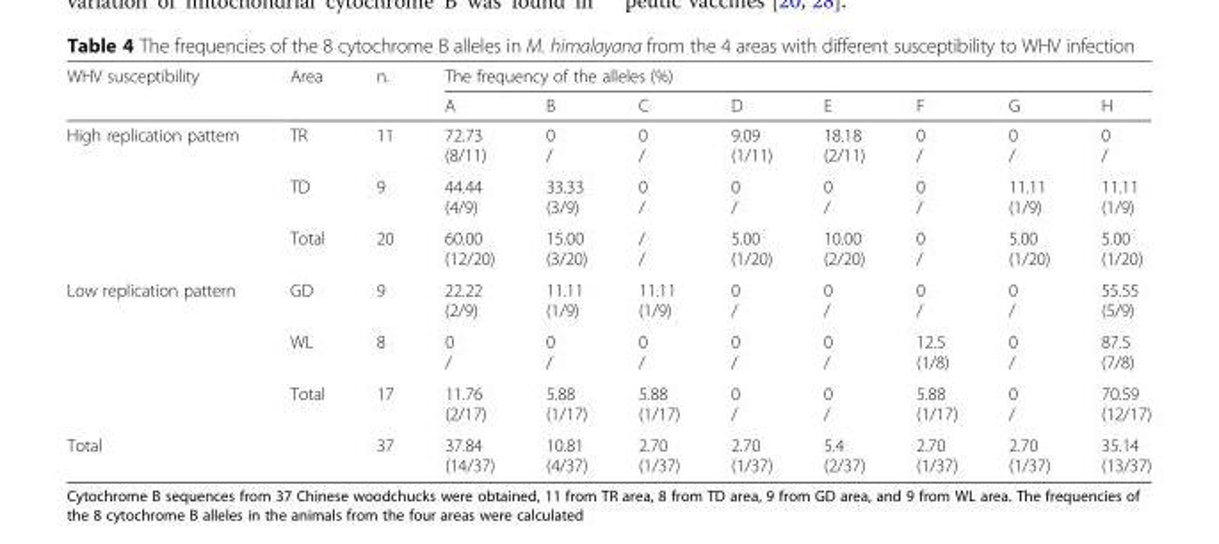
<table><thead><tr><td rowspan="2">WHV susceptibility</td><td rowspan="2">Area</td><td rowspan="2">n.</td><td colspan="8">The frequency of the alleles (%)</td></tr><tr><td>A</td><td>B</td><td>C</td><td>D</td><td>E</td><td>F</td><td>G</td><td>H</td></tr></thead><tbody><tr><td rowspan="3">High replication pattern</td><td>TR</td><td>11</td><td>72.73 (8/11)</td><td>0 /</td><td>0 /</td><td>9.09 (1/11)</td><td>18.18 (2/11)</td><td>0 /</td><td>0 /</td><td>0 /</td></tr><tr><td>TD</td><td>9</td><td>44.44 (4/9)</td><td>33.33 (3/9)</td><td>0 /</td><td>0 /</td><td>0 /</td><td>0 /</td><td>11.11 (1/9)</td><td>11.11 (1/9)</td></tr><tr><td>Total</td><td>20</td><td>60.00 (12/20)</td><td>15.00 (3/20)</td><td>/ /</td><td>5.00 (1/20)</td><td>10.00 (2/20)</td><td>0 /</td><td>5.00 (1/20)</td><td>5.00 (1/20)</td></tr><tr><td rowspan="3">Low replication pattern</td><td>GD</td><td>9</td><td>22.22 (2/9)</td><td>11.11 (1/9)</td><td>11.11 (1/9)</td><td>0 /</td><td>0 /</td><td>0 /</td><td>0 /</td><td>55.55 (5/9)</td></tr><tr><td>WL</td><td>8</td><td>0 /</td><td>0 /</td><td>0 /</td><td>0 /</td><td>0 /</td><td>12.5 (1/8)</td><td>0 /</td><td>87.5 (7/8)</td></tr><tr><td>Total</td><td>17</td><td>11.76 (2/17)</td><td>5.88 (1/17)</td><td>5.88 (1/17)</td><td>0 /</td><td>0 /</td><td>5.88 (1/17)</td><td>0 /</td><td>70.59 (12/17)</td></tr><tr><td colspan="2">Total</td><td>37</td><td>37.84 (14/37)</td><td>10.81 (4/37)</td><td>2.70 (1/37)</td><td>2.70 (1/37)</td><td>5.4 (2/37)</td><td>2.70 (1/37)</td><td>2.70 (1/37)</td><td>35.14 (13/37)</td></tr></tbody></table>